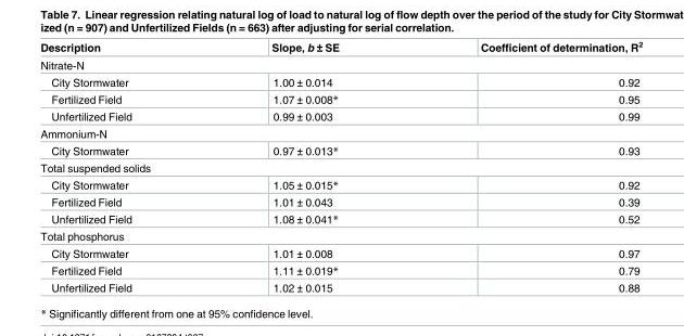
<table><thead><tr><td>Description</td><td>Slope, b ± SE</td><td>Coefficient of determination, R<sup>2</sup></td></tr></thead><tbody><tr><td colspan="3">Nitrate-N</td></tr><tr><td>City Stormwater</td><td>1.00 ± 0.014</td><td>0.92</td></tr><tr><td>Fertilized Field</td><td>1.07 ± 0.008*</td><td>0.95</td></tr><tr><td>Unfertilized Field</td><td>0.99 ± 0.003</td><td>0.99</td></tr><tr><td colspan="3">Ammonium-N</td></tr><tr><td>City Stormwater</td><td>0.97 ± 0.013*</td><td>0.93</td></tr><tr><td colspan="3">Total suspended solids</td></tr><tr><td>City Stormwater</td><td>1.05 ± 0.015*</td><td>0.92</td></tr><tr><td>Fertilized Field</td><td>1.01 ± 0.043</td><td>0.39</td></tr><tr><td>Unfertilized Field</td><td>1.08 ± 0.041*</td><td>0.52</td></tr><tr><td colspan="3">Total phosphorus</td></tr><tr><td>City Stormwater</td><td>1.01 ± 0.008</td><td>0.97</td></tr><tr><td>Fertilized Field</td><td>1.11 ± 0.019*</td><td>0.79</td></tr><tr><td>Unfertilized Field</td><td>1.02 ± 0.015</td><td>0.88</td></tr></tbody></table>